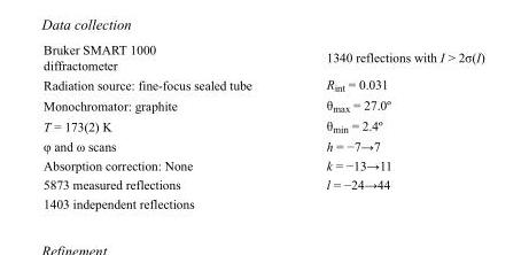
<table><tbody><tr><td>Bruker SMART 1000 diffractometer</td><td>1340 reflections with I &gt; 2σ(I)</td></tr><tr><td>Radiation source: fine-focus sealed tube</td><td>R<sub>int</sub> = 0.031</td></tr><tr><td>Monochromator: graphite</td><td>θ<sub>max</sub> = 27.0º</td></tr><tr><td>T = 173(2) K</td><td>θ<sub>min</sub> = 2.4º</td></tr><tr><td>φ and ω scans</td><td>h = −7→7</td></tr><tr><td>Absorption correction: None</td><td>k = −13→11</td></tr><tr><td>5873 measured reflections</td><td>l = −24→44</td></tr><tr><td>1403 independent reflections</td><td></td></tr></tbody></table>